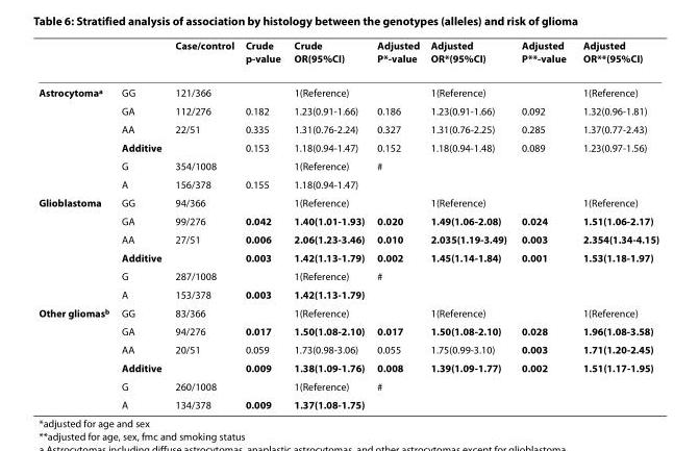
<table><thead><tr><td></td><td></td><td>Case/control</td><td>Crude p-value</td><td>Crude OR(95%CI)</td><td>Adjusted P*-value</td><td>Adjusted OR*(95%CI)</td><td>Adjusted P**-value</td><td>Adjusted OR**(95%CI)</td></tr></thead><tbody><tr><td rowspan="6">Astrocytoma<sup>a</sup></td><td>GG</td><td>121/366</td><td></td><td>1(Reference)</td><td></td><td>1(Reference)</td><td></td><td>1(Reference)</td></tr><tr><td>GA</td><td>112/276</td><td>0.182</td><td>1.23(0.91-1.66)</td><td>0.186</td><td>1.23(0.91-1.66)</td><td>0.092</td><td>1.32(0.96-1.81)</td></tr><tr><td>AA</td><td>22/51</td><td>0.335</td><td>1.31(0.76-2.24)</td><td>0.327</td><td>1.31(0.76-2.25)</td><td>0.285</td><td>1.37(0.77-2.43)</td></tr><tr><td>Additive</td><td></td><td>0.153</td><td>1.18(0.94-1.47)</td><td>0.152</td><td>1.18(0.94-1.48)</td><td>0.089</td><td>1.23(0.97-1.56)</td></tr><tr><td>G</td><td>354/1008</td><td></td><td>1(Reference)</td><td colspan="4">#</td></tr><tr><td>A</td><td>156/378</td><td>0.155</td><td>1.18(0.94-1.47)</td><td></td><td></td><td></td><td></td></tr><tr><td rowspan="6">Glioblastoma</td><td>GG</td><td>94/366</td><td></td><td>1(Reference)</td><td></td><td>1(Reference)</td><td></td><td>1(Reference)</td></tr><tr><td>GA</td><td>99/276</td><td>0.042</td><td>1.40(1.01-1.93)</td><td>0.020</td><td>1.49(1.06-2.08)</td><td>0.024</td><td>1.51(1.06-2.17)</td></tr><tr><td>AA</td><td>27/51</td><td>0.006</td><td>2.06(1.23-3.46)</td><td>0.010</td><td>2.035(1.19-3.49)</td><td>0.003</td><td>2.354(1.34-4.15)</td></tr><tr><td>Additive</td><td></td><td>0.003</td><td>1.42(1.13-1.79)</td><td>0.002</td><td>1.45(1.14-1.84)</td><td>0.001</td><td>1.53(1.18-1.97)</td></tr><tr><td>G</td><td>287/1008</td><td></td><td>1(Reference)</td><td colspan="4">#</td></tr><tr><td>A</td><td>153/378</td><td>0.003</td><td>1.42(1.13-1.79)</td><td></td><td></td><td></td><td></td></tr><tr><td rowspan="6">Other gliomas<sup>b</sup></td><td>GG</td><td>83/366</td><td></td><td>1(Reference)</td><td></td><td>1(Reference)</td><td></td><td>1(Reference)</td></tr><tr><td>GA</td><td>94/276</td><td>0.017</td><td>1.50(1.08-2.10)</td><td>0.017</td><td>1.50(1.08-2.10)</td><td>0.028</td><td>1.96(1.08-3.58)</td></tr><tr><td>AA</td><td>20/51</td><td>0.059</td><td>1.73(0.98-3.06)</td><td>0.055</td><td>1.75(0.99-3.10)</td><td>0.003</td><td>1.71(1.20-2.45)</td></tr><tr><td>Additive</td><td></td><td>0.009</td><td>1.38(1.09-1.76)</td><td>0.008</td><td>1.39(1.09-1.77)</td><td>0.002</td><td>1.51(1.17-1.95)</td></tr><tr><td>G</td><td>260/1008</td><td></td><td>1(Reference)</td><td colspan="4">#</td></tr><tr><td>A</td><td>134/378</td><td>0.009</td><td>1.37(1.08-1.75)</td><td></td><td></td><td></td><td></td></tr></tbody></table>